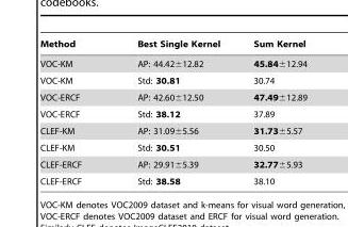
<table><thead><tr><td>Method</td><td>Best Single Kernel</td><td>Sum Kernel</td></tr></thead><tbody><tr><td>VOC-KM</td><td>AP: 44.42±12.82</td><td>45.84±12.94</td></tr><tr><td>VOC-KM</td><td>Std: 30.81</td><td>30.74</td></tr><tr><td>VOC-ERCF</td><td>AP: 42.60±12.50</td><td>47.49±12.89</td></tr><tr><td>VOC-ERCF</td><td>Std: 38.12</td><td>37.89</td></tr><tr><td>CLEF-KM</td><td>AP: 31.09±5.56</td><td>31.73±5.57</td></tr><tr><td>CLEF-KM</td><td>Std: 30.51</td><td>30.50</td></tr><tr><td>CLEF-ERCF</td><td>AP: 29.91±5.39</td><td>32.77±5.93</td></tr><tr><td>CLEF-ERCF</td><td>Std: 38.58</td><td>38.10</td></tr></tbody></table>